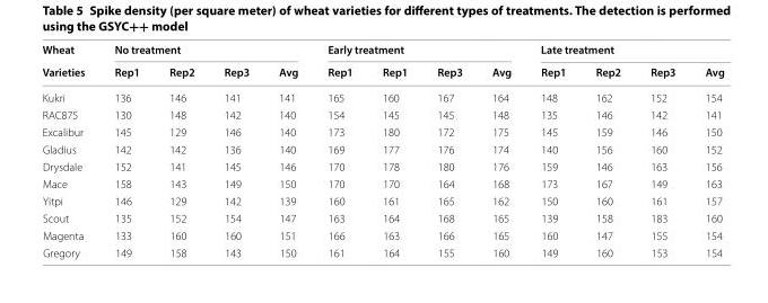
<table><thead><tr><td rowspan="2">Wheat Varieties</td><td colspan="4">No treatment</td><td colspan="4">Early treatment</td><td colspan="4">Late treatment</td></tr><tr><td>Rep1</td><td>Rep2</td><td>Rep3</td><td>Avg</td><td>Rep1</td><td>Rep1</td><td>Rep3</td><td>Avg</td><td>Rep1</td><td>Rep2</td><td>Rep3</td><td>Avg</td></tr></thead><tbody><tr><td>Kukri</td><td>136</td><td>146</td><td>141</td><td>141</td><td>165</td><td>160</td><td>167</td><td>164</td><td>148</td><td>162</td><td>152</td><td>154</td></tr><tr><td>RAC875</td><td>130</td><td>148</td><td>142</td><td>140</td><td>154</td><td>145</td><td>145</td><td>148</td><td>135</td><td>146</td><td>142</td><td>141</td></tr><tr><td>Excalibur</td><td>145</td><td>129</td><td>146</td><td>140</td><td>173</td><td>180</td><td>172</td><td>175</td><td>145</td><td>159</td><td>146</td><td>150</td></tr><tr><td>Gladius</td><td>142</td><td>142</td><td>136</td><td>140</td><td>169</td><td>177</td><td>176</td><td>174</td><td>140</td><td>156</td><td>160</td><td>152</td></tr><tr><td>Drysdale</td><td>152</td><td>141</td><td>145</td><td>146</td><td>170</td><td>178</td><td>180</td><td>176</td><td>159</td><td>146</td><td>163</td><td>156</td></tr><tr><td>Mace</td><td>158</td><td>143</td><td>149</td><td>150</td><td>170</td><td>170</td><td>164</td><td>168</td><td>173</td><td>167</td><td>149</td><td>163</td></tr><tr><td>Yitpi</td><td>146</td><td>129</td><td>142</td><td>139</td><td>160</td><td>161</td><td>165</td><td>162</td><td>150</td><td>160</td><td>161</td><td>157</td></tr><tr><td>Scout</td><td>135</td><td>152</td><td>154</td><td>147</td><td>163</td><td>164</td><td>168</td><td>165</td><td>139</td><td>158</td><td>183</td><td>160</td></tr><tr><td>Magenta</td><td>133</td><td>160</td><td>160</td><td>151</td><td>166</td><td>163</td><td>166</td><td>165</td><td>160</td><td>147</td><td>155</td><td>154</td></tr><tr><td>Gregory</td><td>149</td><td>158</td><td>143</td><td>150</td><td>161</td><td>164</td><td>155</td><td>160</td><td>149</td><td>160</td><td>153</td><td>154</td></tr></tbody></table>